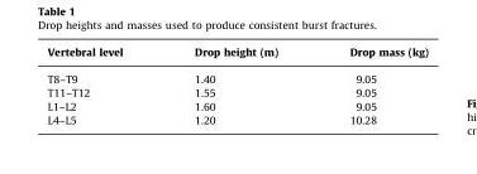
<table><thead><tr><td>Vertebral level</td><td>Drop height (m)</td><td>Drop mass (kg)</td></tr></thead><tbody><tr><td>T8–T9</td><td>1.40</td><td>9.05</td></tr><tr><td>T11–T12</td><td>1.55</td><td>9.05</td></tr><tr><td>L1–L2</td><td>1.60</td><td>9.05</td></tr><tr><td>L4–L5</td><td>1.20</td><td>10.28</td></tr></tbody></table>